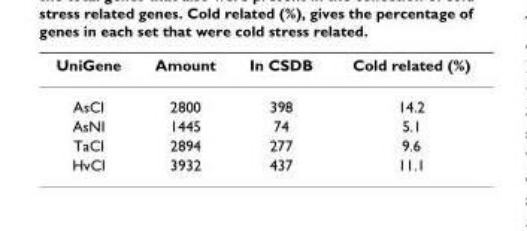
<table><thead><tr><td>UniGene</td><td>Amount</td><td>In CSDB</td><td>Cold related (%)</td></tr></thead><tbody><tr><td>AsCI</td><td>2800</td><td>398</td><td>14.2</td></tr><tr><td>AsNI</td><td>1445</td><td>74</td><td>5.1</td></tr><tr><td>TaCI</td><td>2894</td><td>277</td><td>9.6</td></tr><tr><td>HvCI</td><td>3932</td><td>437</td><td>11.1</td></tr></tbody></table>